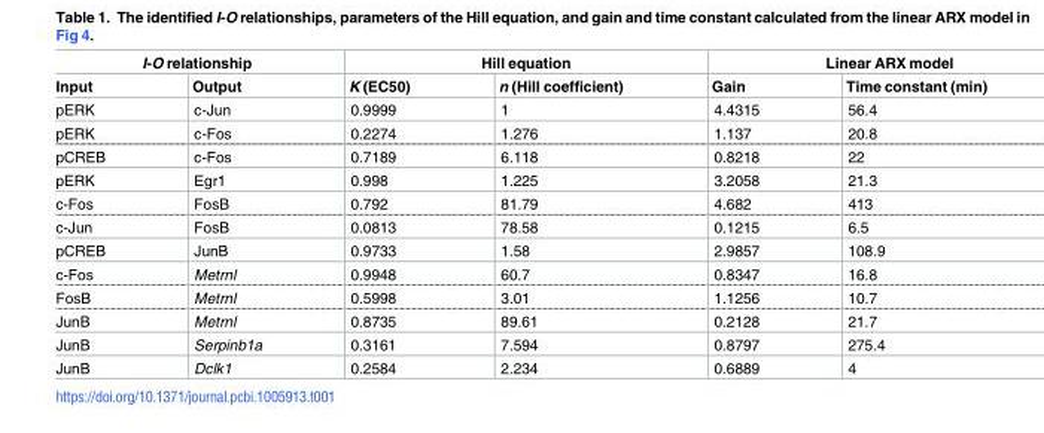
<table><thead><tr><td colspan="2">I-O relationship</td><td colspan="2">Hill equation</td><td colspan="2">Linear ARX model</td></tr><tr><td>Input</td><td>Output</td><td>K (EC50)</td><td>n (Hill coefficient)</td><td>Gain</td><td>Time constant (min)</td></tr></thead><tbody><tr><td>pERK</td><td>c-Jun</td><td>0.9999</td><td>1</td><td>4.4315</td><td>56.4</td></tr><tr><td>pERK</td><td>c-Fos</td><td>0.2274</td><td>1.276</td><td>1.137</td><td>20.8</td></tr><tr><td>pCREB</td><td>c-Fos</td><td>0.7189</td><td>6.118</td><td>0.8218</td><td>22</td></tr><tr><td>pERK</td><td>Egr1</td><td>0.998</td><td>1.225</td><td>3.2058</td><td>21.3</td></tr><tr><td>c-Fos</td><td>FosB</td><td>0.792</td><td>81.79</td><td>4.682</td><td>413</td></tr><tr><td>c-Jun</td><td>FosB</td><td>0.0813</td><td>78.58</td><td>0.1215</td><td>6.5</td></tr><tr><td>pCREB</td><td>JunB</td><td>0.9733</td><td>1.58</td><td>2.9857</td><td>108.9</td></tr><tr><td>c-Fos</td><td>Metrnl</td><td>0.9948</td><td>60.7</td><td>0.8347</td><td>16.8</td></tr><tr><td>FosB</td><td>Metrnl</td><td>0.5998</td><td>3.01</td><td>1.1256</td><td>10.7</td></tr><tr><td>JunB</td><td>Metrnl</td><td>0.8735</td><td>89.61</td><td>0.2128</td><td>21.7</td></tr><tr><td>JunB</td><td>Serpinb1a</td><td>0.3161</td><td>7.594</td><td>0.8797</td><td>275.4</td></tr><tr><td>JunB</td><td>Dclk1</td><td>0.2584</td><td>2.234</td><td>0.6889</td><td>4</td></tr></tbody></table>